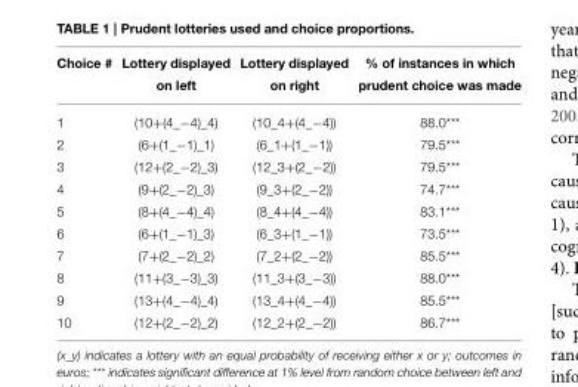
<table><thead><tr><td>Choice #</td><td>Lottery displayed on left</td><td>Lottery displayed on right</td><td>% of instances in which prudent choice was made</td></tr></thead><tbody><tr><td>1</td><td>(10+(4_−4)_4)</td><td>(10_4+(4_−4))</td><td>88.0***</td></tr><tr><td>2</td><td>(6+(1_−1)_1)</td><td>(6_1+(1_−1))</td><td>79.5***</td></tr><tr><td>3</td><td>(12+(2_−2)_3)</td><td>(12_3+(2_−2))</td><td>79.5***</td></tr><tr><td>4</td><td>(9+(2_−2)_3)</td><td>(9_3+(2_−2))</td><td>74.7***</td></tr><tr><td>5</td><td>(8+(4_−4)_4)</td><td>(8_4+(4_−4))</td><td>83.1***</td></tr><tr><td>6</td><td>(6+(1_−1)_3)</td><td>(6_3+(1_−1))</td><td>73.5***</td></tr><tr><td>7</td><td>(7+(2_−2)_2)</td><td>(7_2+(2_−2))</td><td>85.5***</td></tr><tr><td>8</td><td>(11+(3_−3)_3)</td><td>(11_3+(3_−3))</td><td>88.0***</td></tr><tr><td>9</td><td>(13+(4_−4)_4)</td><td>(13_4+(4_−4))</td><td>85.5***</td></tr><tr><td>10</td><td>(12+(2_−2)_2)</td><td>(12_2+(2_−2))</td><td>86.7***</td></tr></tbody></table>